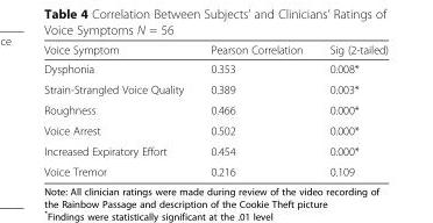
<table><thead><tr><td>Voice Symptom</td><td>Pearson Correlation</td><td>Sig (2-tailed)</td></tr></thead><tbody><tr><td>Dysphonia</td><td>0.353</td><td>0.008*</td></tr><tr><td>Strain-Strangled Voice Quality</td><td>0.389</td><td>0.003*</td></tr><tr><td>Roughness</td><td>0.466</td><td>0.000*</td></tr><tr><td>Voice Arrest</td><td>0.502</td><td>0.000*</td></tr><tr><td>Increased Expiratory Effort</td><td>0.454</td><td>0.000*</td></tr><tr><td>Voice Tremor</td><td>0.216</td><td>0.109</td></tr></tbody></table>